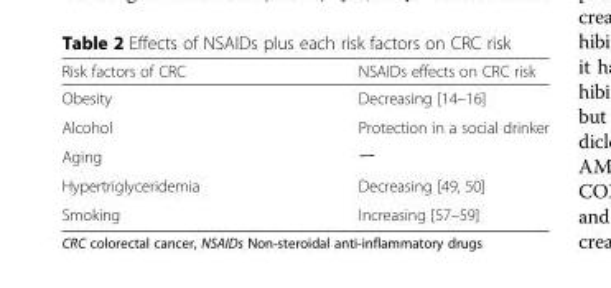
<table><thead><tr><td>Risk factors of CRC</td><td>NSAIDs effects on CRC risk</td></tr></thead><tbody><tr><td>Obesity</td><td>Decreasing [14–16]</td></tr><tr><td>Alcohol</td><td>Protection in a social drinker</td></tr><tr><td>Aging</td><td>ー</td></tr><tr><td>Hypertriglyceridemia</td><td>Decreasing [49, 50]</td></tr><tr><td>Smoking</td><td>Increasing [57–59]</td></tr></tbody></table>